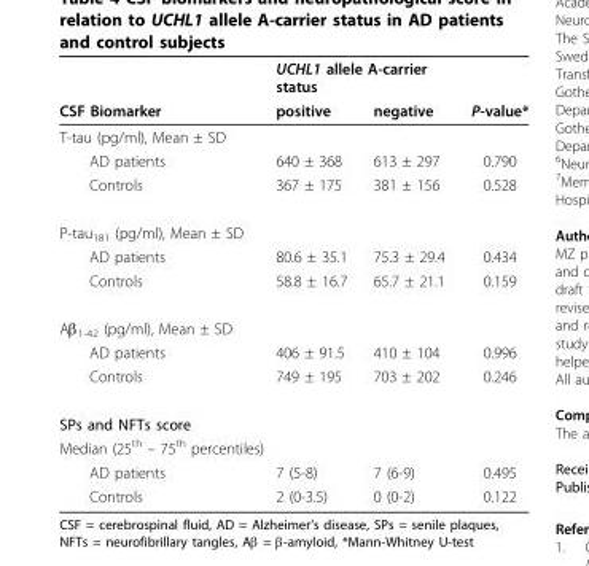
<table><thead><tr><td rowspan="2">CSF Biomarker</td><td colspan="2">UCHL1 allele A-carrier status</td><td rowspan="2">P-value*</td></tr><tr><td>positive</td><td>negative</td></tr></thead><tbody><tr><td colspan="4">T-tau (pg/ml), Mean ± SD</td></tr><tr><td>AD patients</td><td>640 ± 368</td><td>613 ± 297</td><td>0.790</td></tr><tr><td>Controls</td><td>367 ± 175</td><td>381 ± 156</td><td>0.528</td></tr><tr><td colspan="4">P-tau<sub>181</sub> (pg/ml), Mean ± SD</td></tr><tr><td>AD patients</td><td>80.6 ± 35.1</td><td>75.3 ± 29.4</td><td>0.434</td></tr><tr><td>Controls</td><td>58.8 ± 16.7</td><td>65.7 ± 21.1</td><td>0.159</td></tr><tr><td colspan="4">Aβ<sub>1-42</sub> (pg/ml), Mean ± SD</td></tr><tr><td>AD patients</td><td>406 ± 91.5</td><td>410 ± 104</td><td>0.996</td></tr><tr><td>Controls</td><td>749 ± 195</td><td>703 ± 202</td><td>0.246</td></tr><tr><td colspan="4">SPs and NFTs score</td></tr><tr><td colspan="4">Median (25th – 75th percentiles)</td></tr><tr><td>AD patients</td><td>7 (5-8)</td><td>7 (6-9)</td><td>0.495</td></tr><tr><td>Controls</td><td>2 (0-3.5)</td><td>0 (0-2)</td><td>0.122</td></tr></tbody></table>